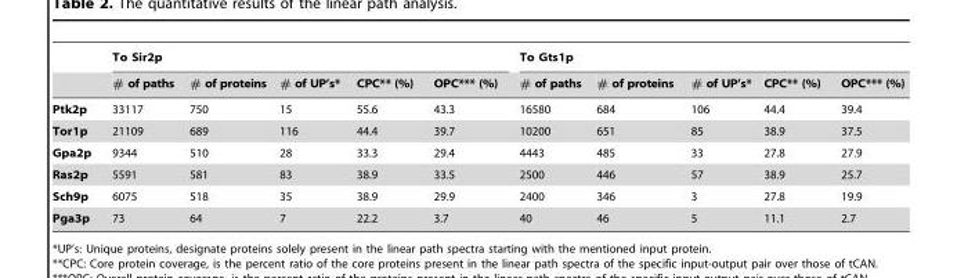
<table><thead><tr><td rowspan="2"></td><td colspan="5">To Sir2p</td><td colspan="5">To Gts1p</td></tr><tr><td># of paths</td><td># of proteins</td><td># of UP’s*</td><td>CPC** (%)</td><td>OPC*** (%)</td><td># of paths</td><td># of proteins</td><td># of UP’s*</td><td>CPC** (%)</td><td>OPC*** (%)</td></tr></thead><tbody><tr><td>Ptk2p</td><td>33117</td><td>750</td><td>15</td><td>55.6</td><td>43.3</td><td>16580</td><td>684</td><td>106</td><td>44.4</td><td>39.4</td></tr><tr><td>Tor1p</td><td>21109</td><td>689</td><td>116</td><td>44.4</td><td>39.7</td><td>10200</td><td>651</td><td>85</td><td>38.9</td><td>37.5</td></tr><tr><td>Gpa2p</td><td>9344</td><td>510</td><td>28</td><td>33.3</td><td>29.4</td><td>4443</td><td>485</td><td>33</td><td>27.8</td><td>27.9</td></tr><tr><td>Ras2p</td><td>5591</td><td>581</td><td>83</td><td>38.9</td><td>33.5</td><td>2500</td><td>446</td><td>57</td><td>38.9</td><td>25.7</td></tr><tr><td>Sch9p</td><td>6075</td><td>518</td><td>35</td><td>38.9</td><td>29.9</td><td>2400</td><td>346</td><td>3</td><td>27.8</td><td>19.9</td></tr><tr><td>Pga3p</td><td>73</td><td>64</td><td>7</td><td>22.2</td><td>3.7</td><td>40</td><td>46</td><td>5</td><td>11.1</td><td>2.7</td></tr></tbody></table>